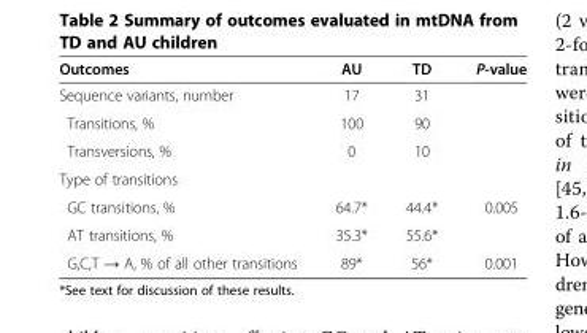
<table><thead><tr><td>Outcomes</td><td>AU</td><td>TD</td><td>P-value</td></tr></thead><tbody><tr><td>Sequence variants, number</td><td>17</td><td>31</td><td></td></tr><tr><td>Transitions, %</td><td>100</td><td>90</td><td></td></tr><tr><td>Transversions, %</td><td>0</td><td>10</td><td></td></tr><tr><td colspan="4">Type of transitions</td></tr><tr><td>GC transitions, %</td><td>64.7*</td><td>44.4*</td><td>0.005</td></tr><tr><td>AT transitions, %</td><td>35.3*</td><td>55.6*</td><td></td></tr><tr><td>G,C,T → A, % of all other transitions</td><td>89*</td><td>56*</td><td>0.001</td></tr></tbody></table>